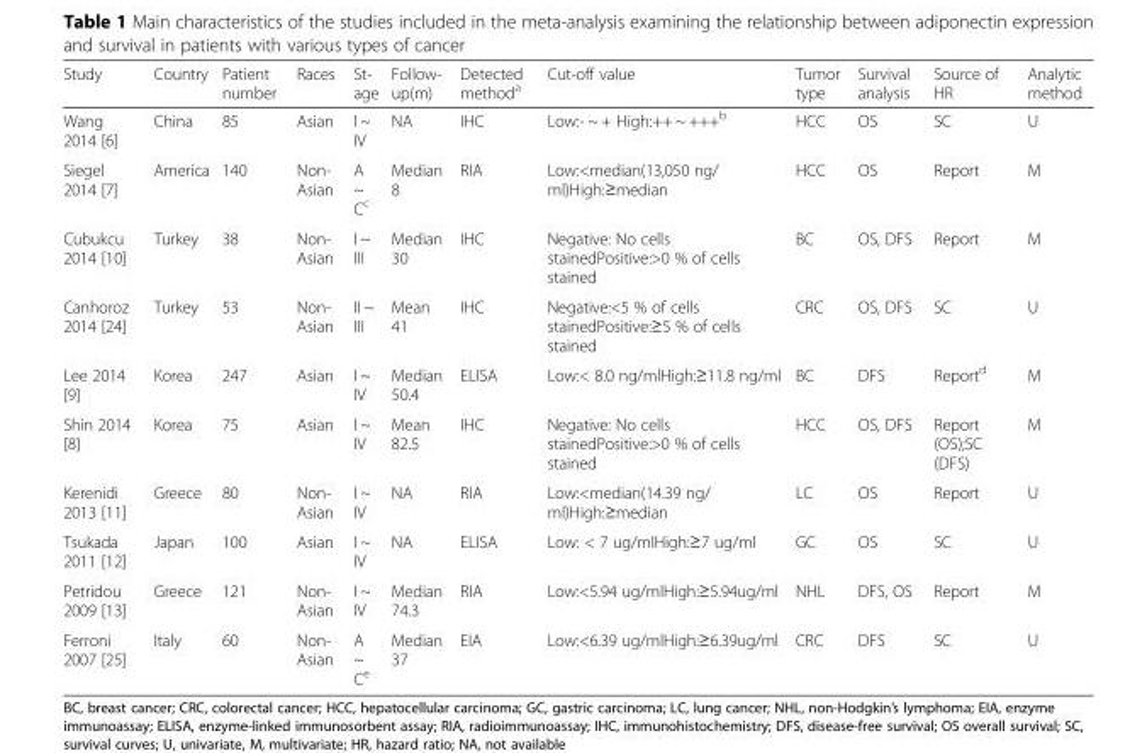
<table><thead><tr><td>Study</td><td>Country</td><td>Patient number</td><td>Races</td><td>St- age</td><td>Follow- up(m)</td><td>Detected method<sup>a</sup></td><td>Cut-off value</td><td>Tumor type</td><td>Survival analysis</td><td>Source of HR</td><td>Analytic method</td></tr></thead><tbody><tr><td>Wang 2014 [6]</td><td>China</td><td>85</td><td>Asian</td><td>I ~ IV</td><td>NA</td><td>IHC</td><td>Low:- ~ + High:++ ~ +++<sup>b</sup></td><td>HCC</td><td>OS</td><td>SC</td><td>U</td></tr><tr><td>Siegel 2014 [7]</td><td>America</td><td>140</td><td>Non- Asian</td><td>A ~ C<sup>c</sup></td><td>Median 8</td><td>RIA</td><td>Low:&lt;median(13,050 ng/ ml)High:≥median</td><td>HCC</td><td>OS</td><td>Report</td><td>M</td></tr><tr><td>Cubukcu 2014 [10]</td><td>Turkey</td><td>38</td><td>Non- Asian</td><td>I ~ III</td><td>Median 30</td><td>IHC</td><td>Negative: No cells stainedPositive:&gt;0 % of cells stained</td><td>BC</td><td>OS, DFS</td><td>Report</td><td>M</td></tr><tr><td>Canhoroz 2014 [24]</td><td>Turkey</td><td>53</td><td>Non- Asian</td><td>II ~ III</td><td>Mean 41</td><td>IHC</td><td>Negative:&lt;5 % of cells stainedPositive:≥5 % of cells stained</td><td>CRC</td><td>OS, DFS</td><td>SC</td><td>U</td></tr><tr><td>Lee 2014 [9]</td><td>Korea</td><td>247</td><td>Asian</td><td>I ~ IV</td><td>Median 50.4</td><td>ELISA</td><td>Low:&lt; 8.0 ng/mlHigh:≥11.8 ng/ml</td><td>BC</td><td>DFS</td><td>Report<sup>d</sup></td><td>M</td></tr><tr><td>Shin 2014 [8]</td><td>Korea</td><td>75</td><td>Asian</td><td>I ~ IV</td><td>Mean 82.5</td><td>IHC</td><td>Negative: No cells stainedPositive:&gt;0 % of cells stained</td><td>HCC</td><td>OS, DFS</td><td>Report (OS);SC (DFS)</td><td>M</td></tr><tr><td>Kerenidi 2013 [11]</td><td>Greece</td><td>80</td><td>Non- Asian</td><td>I ~ IV</td><td>NA</td><td>RIA</td><td>Low:&lt;median(14.39 ng/ ml)High:≥median</td><td>LC</td><td>OS</td><td>Report</td><td>U</td></tr><tr><td>Tsukada 2011 [12]</td><td>Japan</td><td>100</td><td>Asian</td><td>I ~ IV</td><td>NA</td><td>ELISA</td><td>Low: &lt; 7 ug/mlHigh:≥7 ug/ml</td><td>GC</td><td>OS</td><td>SC</td><td>U</td></tr><tr><td>Petridou 2009 [13]</td><td>Greece</td><td>121</td><td>Non- Asian</td><td>I ~ IV</td><td>Median 74.3</td><td>RIA</td><td>Low:&lt;5.94 ug/mlHigh:≥5.94ug/ml</td><td>NHL</td><td>DFS, OS</td><td>Report</td><td>M</td></tr><tr><td>Ferroni 2007 [25]</td><td>Italy</td><td>60</td><td>Non- Asian</td><td>A ~ C<sup>e</sup></td><td>Median 37</td><td>EIA</td><td>Low:&lt;6.39 ug/mlHigh:≥6.39ug/ml</td><td>CRC</td><td>DFS</td><td>SC</td><td>U</td></tr></tbody></table>